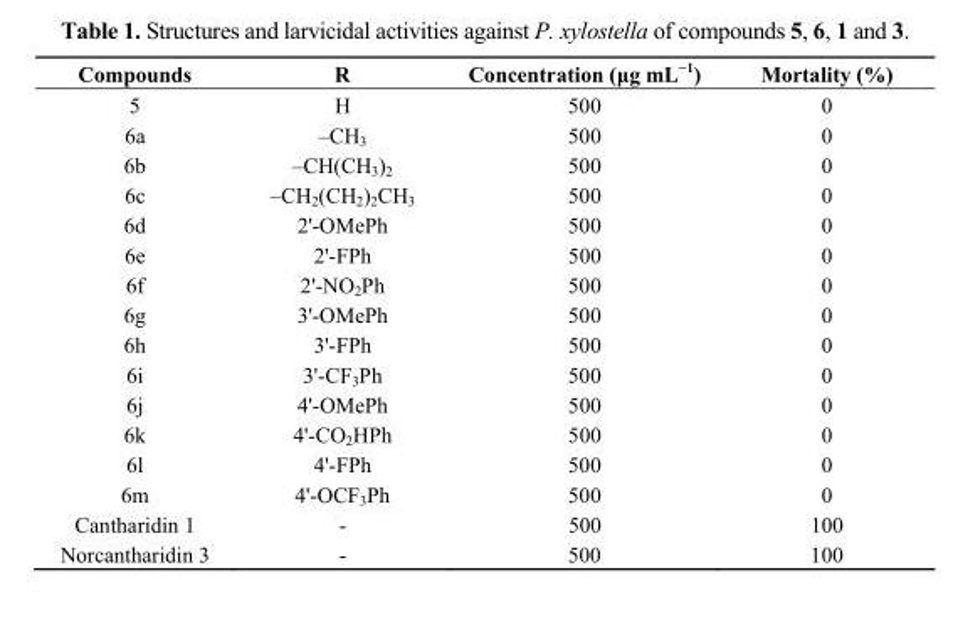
<table><thead><tr><td>Compounds</td><td>R</td><td>Concentration (μg mL<sup>−1</sup>)</td><td>Mortality (%)</td></tr></thead><tbody><tr><td>5</td><td>H</td><td>500</td><td>0</td></tr><tr><td>6a</td><td>–CH<sub>3</sub></td><td>500</td><td>0</td></tr><tr><td>6b</td><td>–CH(CH<sub>3</sub>)<sub>2</sub></td><td>500</td><td>0</td></tr><tr><td>6c</td><td>–CH<sub>2</sub>(CH<sub>2</sub>)<sub>2</sub>CH<sub>3</sub></td><td>500</td><td>0</td></tr><tr><td>6d</td><td>2&#x27;-OMePh</td><td>500</td><td>0</td></tr><tr><td>6e</td><td>2&#x27;-FPh</td><td>500</td><td>0</td></tr><tr><td>6f</td><td>2&#x27;-NO<sub>2</sub>Ph</td><td>500</td><td>0</td></tr><tr><td>6g</td><td>3&#x27;-OMePh</td><td>500</td><td>0</td></tr><tr><td>6h</td><td>3&#x27;-FPh</td><td>500</td><td>0</td></tr><tr><td>6i</td><td>3&#x27;-CF<sub>3</sub>Ph</td><td>500</td><td>0</td></tr><tr><td>6j</td><td>4&#x27;-OMePh</td><td>500</td><td>0</td></tr><tr><td>6k</td><td>4&#x27;-CO<sub>2</sub>HPh</td><td>500</td><td>0</td></tr><tr><td>6l</td><td>4&#x27;-FPh</td><td>500</td><td>0</td></tr><tr><td>6m</td><td>4&#x27;-OCF<sub>3</sub>Ph</td><td>500</td><td>0</td></tr><tr><td>Cantharidin 1</td><td>-</td><td>500</td><td>100</td></tr><tr><td>Norcantharidin 3</td><td>-</td><td>500</td><td>100</td></tr></tbody></table>